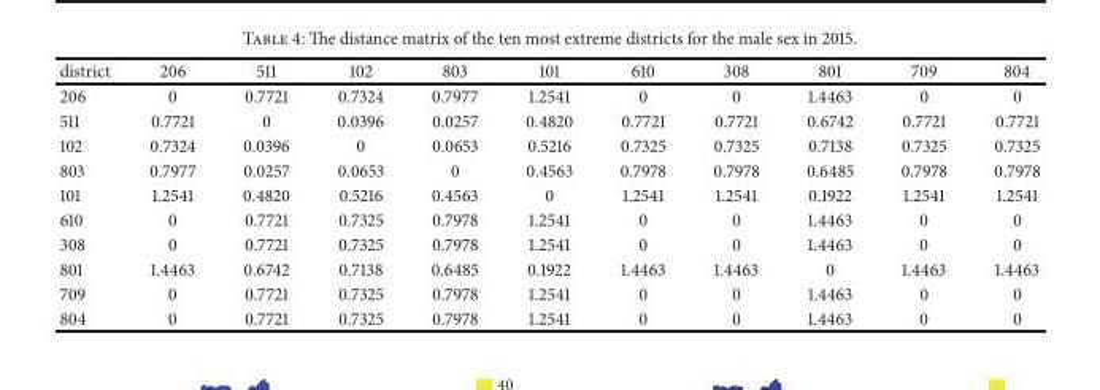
<table><thead><tr><td>district</td><td>206</td><td>511</td><td>102</td><td>803</td><td>101</td><td>610</td><td>308</td><td>801</td><td>709</td><td>804</td></tr></thead><tbody><tr><td>206</td><td>0</td><td>0.7721</td><td>0.7324</td><td>0.7977</td><td>1.2541</td><td>0</td><td>0</td><td>1.4463</td><td>0</td><td>0</td></tr><tr><td>511</td><td>0.7721</td><td>0</td><td>0.0396</td><td>0.0257</td><td>0.4820</td><td>0.7721</td><td>0.7721</td><td>0.6742</td><td>0.7721</td><td>0.7721</td></tr><tr><td>102</td><td>0.7324</td><td>0.0396</td><td>0</td><td>0.0653</td><td>0.5216</td><td>0.7325</td><td>0.7325</td><td>0.7138</td><td>0.7325</td><td>0.7325</td></tr><tr><td>803</td><td>0.7977</td><td>0.0257</td><td>0.0653</td><td>0</td><td>0.4563</td><td>0.7978</td><td>0.7978</td><td>0.6485</td><td>0.7978</td><td>0.7978</td></tr><tr><td>101</td><td>1.2541</td><td>0.4820</td><td>0.5216</td><td>0.4563</td><td>0</td><td>1.2541</td><td>1.2541</td><td>0.1922</td><td>1.2541</td><td>1.2541</td></tr><tr><td>610</td><td>0</td><td>0.7721</td><td>0.7325</td><td>0.7978</td><td>1.2541</td><td>0</td><td>0</td><td>1.4463</td><td>0</td><td>0</td></tr><tr><td>308</td><td>0</td><td>0.7721</td><td>0.7325</td><td>0.7978</td><td>1.2541</td><td>0</td><td>0</td><td>1.4463</td><td>0</td><td>0</td></tr><tr><td>801</td><td>1.4463</td><td>0.6742</td><td>0.7138</td><td>0.6485</td><td>0.1922</td><td>1.4463</td><td>1.4463</td><td>0</td><td>1.4463</td><td>1.4463</td></tr><tr><td>709</td><td>0</td><td>0.7721</td><td>0.7325</td><td>0.7978</td><td>1.2541</td><td>0</td><td>0</td><td>1.4463</td><td>0</td><td>0</td></tr><tr><td>804</td><td>0</td><td>0.7721</td><td>0.7325</td><td>0.7978</td><td>1.2541</td><td>0</td><td>0</td><td>1.4463</td><td>0</td><td>0</td></tr></tbody></table>